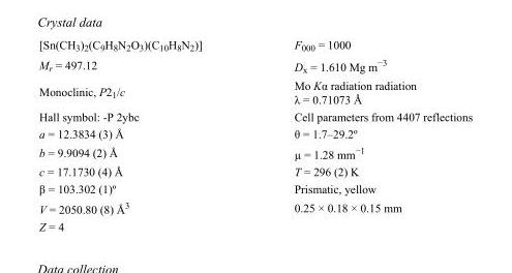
<table><tbody><tr><td>[Sn(CH<sub>3</sub>)<sub>2</sub>(C<sub>9</sub>H<sub>8</sub>N<sub>2</sub>O<sub>3</sub>)(C<sub>10</sub>H<sub>8</sub>N<sub>2</sub>)]</td><td>F<sub>000</sub> = 1000</td></tr><tr><td>M<sub>r</sub> = 497.12</td><td>D<sub>x</sub> = 1.610 Mg m<sup>−3</sup></td></tr><tr><td>Monoclinic, P2<sub>1</sub>/c</td><td>Mo Kα radiation radiation λ = 0.71073 Å</td></tr><tr><td>Hall symbol: -P 2ybc</td><td>Cell parameters from 4407 reflections</td></tr><tr><td>a = 12.3834 (3) Å</td><td>θ = 1.7–29.2º</td></tr><tr><td>b = 9.9094 (2) Å</td><td>µ = 1.28 mm<sup>−1</sup></td></tr><tr><td>c = 17.1730 (4) Å</td><td>T = 296 (2) K</td></tr><tr><td>β = 103.302 (1)º</td><td>Prismatic, yellow</td></tr><tr><td>V = 2050.80 (8) Å<sup>3</sup></td><td>0.25 × 0.18 × 0.15 mm</td></tr><tr><td>Z = 4</td><td></td></tr></tbody></table>